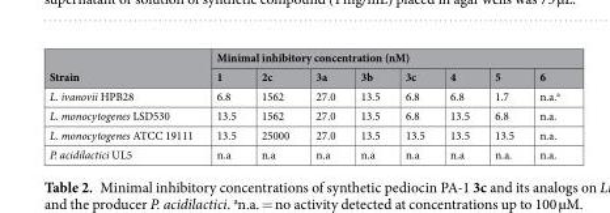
<table><thead><tr><td rowspan="2">Strain</td><td colspan="8">Minimal inhibitory concentration (nM)</td></tr><tr><td>1</td><td>2c</td><td>3a</td><td>3b</td><td>3c</td><td>4</td><td>5</td><td>6</td></tr></thead><tbody><tr><td>L. ivanovii HPB28</td><td>6.8</td><td>1562</td><td>27.0</td><td>13.5</td><td>6.8</td><td>6.8</td><td>1.7</td><td>n.a.<sup>a</sup></td></tr><tr><td>L. monocytogenes LSD530</td><td>13.5</td><td>1562</td><td>27.0</td><td>13.5</td><td>6.8</td><td>13.5</td><td>6.8</td><td>n.a.</td></tr><tr><td>L. monocytogenes ATCC 19111</td><td>13.5</td><td>25000</td><td>27.0</td><td>13.5</td><td>13.5</td><td>13.5</td><td>13.5</td><td>n.a.</td></tr><tr><td>P. acidilactici UL5</td><td>n.a</td><td>n.a</td><td>n.a</td><td>n.a</td><td>n.a</td><td>n.a</td><td>n.a.</td><td>n.a.</td></tr></tbody></table>